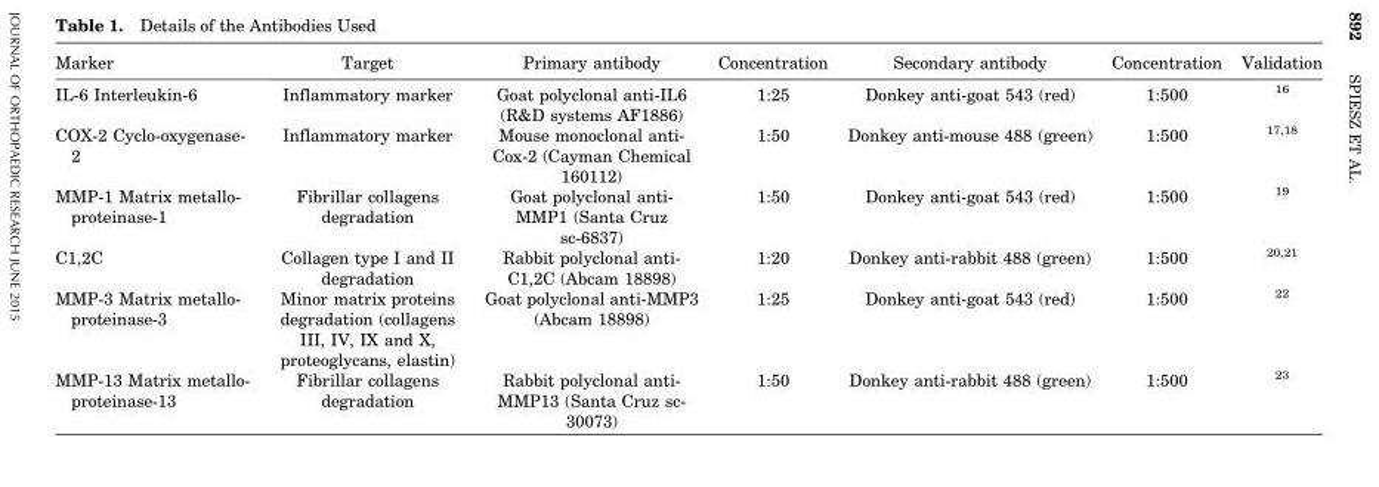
<table><thead><tr><td>Marker</td><td>Target</td><td>Primary antibody</td><td>Concentration</td><td>Secondary antibody</td><td>Concentration</td><td>Validation</td></tr></thead><tbody><tr><td>IL-6 Interleukin-6</td><td>Inflammatory marker</td><td>Goat polyclonal anti-IL6 (R&amp;D systems AF1886)</td><td>1:25</td><td>Donkey anti-goat 543 (red)</td><td>1:500</td><td>16</td></tr><tr><td>COX-2 Cyclo-oxygenase- 2</td><td>Inflammatory marker</td><td>Mouse monoclonal anti- Cox-2 (Cayman Chemical 160112)</td><td>1:50</td><td>Donkey anti-mouse 488 (green)</td><td>1:500</td><td>17,18</td></tr><tr><td>MMP-1 Matrix metallo- proteinase-1</td><td>Fibrillar collagens degradation</td><td>Goat polyclonal anti- MMP1 (Santa Cruz sc-6837)</td><td>1:50</td><td>Donkey anti-goat 543 (red)</td><td>1:500</td><td>19</td></tr><tr><td>C1,2C</td><td>Collagen type I and II degradation</td><td>Rabbit polyclonal anti- C1,2C (Abcam 18898)</td><td>1:20</td><td>Donkey anti-rabbit 488 (green)</td><td>1:500</td><td>20,21</td></tr><tr><td>MMP-3 Matrix metallo- proteinase-3</td><td>Minor matrix proteins degradation (collagens III, IV, IX and X, proteoglycans, elastin)</td><td>Goat polyclonal anti-MMP3 (Abcam 18898)</td><td>1:25</td><td>Donkey anti-goat 543 (red)</td><td>1:500</td><td>22</td></tr><tr><td>MMP-13 Matrix metallo- proteinase-13</td><td>Fibrillar collagens degradation</td><td>Rabbit polyclonal anti- MMP13 (Santa Cruz sc- 30073)</td><td>1:50</td><td>Donkey anti-rabbit 488 (green)</td><td>1:500</td><td>23</td></tr></tbody></table>